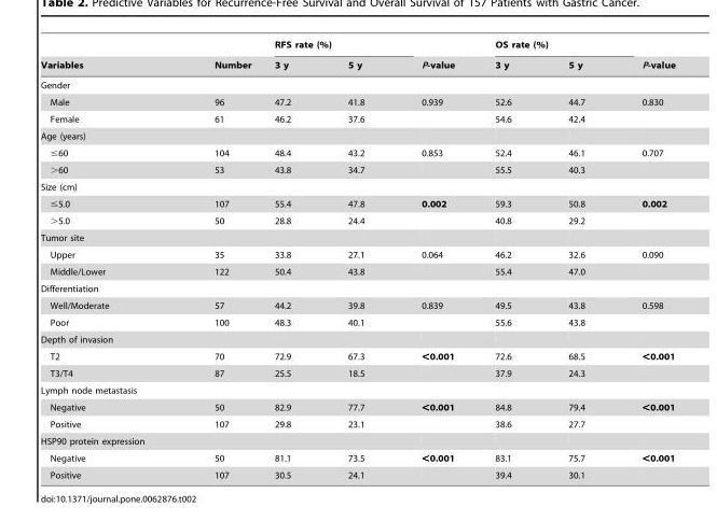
<table><thead><tr><td rowspan="2">Variables</td><td rowspan="2">Number</td><td colspan="2">RFS rate (%)</td><td rowspan="2">P-value</td><td colspan="2">OS rate (%)</td><td rowspan="2">P-value</td></tr><tr><td>3 y</td><td>5 y</td><td>3 y</td><td>5 y</td></tr></thead><tbody><tr><td colspan="8">Gender</td></tr><tr><td>Male</td><td>96</td><td>47.2</td><td>41.8</td><td>0.939</td><td>52.6</td><td>44.7</td><td>0.830</td></tr><tr><td>Female</td><td>61</td><td>46.2</td><td>37.6</td><td></td><td>54.6</td><td>42.4</td><td></td></tr><tr><td colspan="8">Age (years)</td></tr><tr><td>≤60</td><td>104</td><td>48.4</td><td>43.2</td><td>0.853</td><td>52.4</td><td>46.1</td><td>0.707</td></tr><tr><td>&gt;60</td><td>53</td><td>43.8</td><td>34.7</td><td></td><td>55.5</td><td>40.3</td><td></td></tr><tr><td colspan="8">Size (cm)</td></tr><tr><td>≤5.0</td><td>107</td><td>55.4</td><td>47.8</td><td>0.002</td><td>59.3</td><td>50.8</td><td>0.002</td></tr><tr><td>&gt;5.0</td><td>50</td><td>28.8</td><td>24.4</td><td></td><td>40.8</td><td>29.2</td><td></td></tr><tr><td colspan="8">Tumor site</td></tr><tr><td>Upper</td><td>35</td><td>33.8</td><td>27.1</td><td>0.064</td><td>46.2</td><td>32.6</td><td>0.090</td></tr><tr><td>Middle/Lower</td><td>122</td><td>50.4</td><td>43.8</td><td></td><td>55.4</td><td>47.0</td><td></td></tr><tr><td colspan="8">Differentiation</td></tr><tr><td>Well/Moderate</td><td>57</td><td>44.2</td><td>39.8</td><td>0.839</td><td>49.5</td><td>43.8</td><td>0.598</td></tr><tr><td>Poor</td><td>100</td><td>48.3</td><td>40.1</td><td></td><td>55.6</td><td>43.8</td><td></td></tr><tr><td colspan="8">Depth of invasion</td></tr><tr><td>T2</td><td>70</td><td>72.9</td><td>67.3</td><td>&lt;0.001</td><td>72.6</td><td>68.5</td><td>&lt;0.001</td></tr><tr><td>T3/T4</td><td>87</td><td>25.5</td><td>18.5</td><td></td><td>37.9</td><td>24.3</td><td></td></tr><tr><td colspan="8">Lymph node metastasis</td></tr><tr><td>Negative</td><td>50</td><td>82.9</td><td>77.7</td><td>&lt;0.001</td><td>84.8</td><td>79.4</td><td>&lt;0.001</td></tr><tr><td>Positive</td><td>107</td><td>29.8</td><td>23.1</td><td></td><td>38.6</td><td>27.7</td><td></td></tr><tr><td colspan="8">HSP90 protein expression</td></tr><tr><td>Negative</td><td>50</td><td>81.1</td><td>73.5</td><td>&lt;0.001</td><td>83.1</td><td>75.7</td><td>&lt;0.001</td></tr><tr><td>Positive</td><td>107</td><td>30.5</td><td>24.1</td><td></td><td>39.4</td><td>30.1</td><td></td></tr></tbody></table>